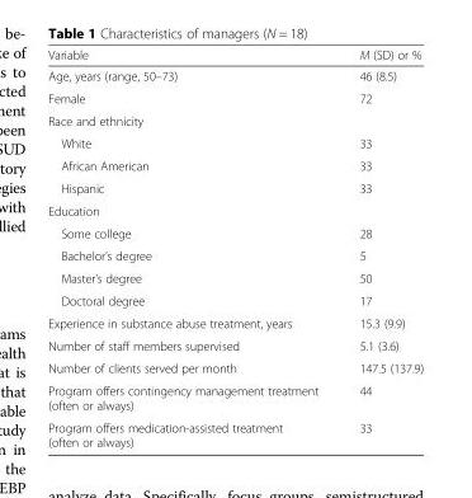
<table><thead><tr><td>Variable</td><td>M (SD) or %</td></tr></thead><tbody><tr><td>Age, years (range, 50–73)</td><td>46 (8.5)</td></tr><tr><td>Female</td><td>72</td></tr><tr><td colspan="2">Race and ethnicity</td></tr><tr><td>White</td><td>33</td></tr><tr><td>African American</td><td>33</td></tr><tr><td>Hispanic</td><td>33</td></tr><tr><td colspan="2">Education</td></tr><tr><td>Some college</td><td>28</td></tr><tr><td>Bachelor’s degree</td><td>5</td></tr><tr><td>Master’s degree</td><td>50</td></tr><tr><td>Doctoral degree</td><td>17</td></tr><tr><td>Experience in substance abuse treatment, years</td><td>15.3 (9.9)</td></tr><tr><td>Number of staff members supervised</td><td>5.1 (3.6)</td></tr><tr><td>Number of clients served per month</td><td>147.5 (137.9)</td></tr><tr><td>Program offers contingency management treatment (often or always)</td><td>44</td></tr><tr><td>Program offers medication-assisted treatment (often or always)</td><td>33</td></tr></tbody></table>